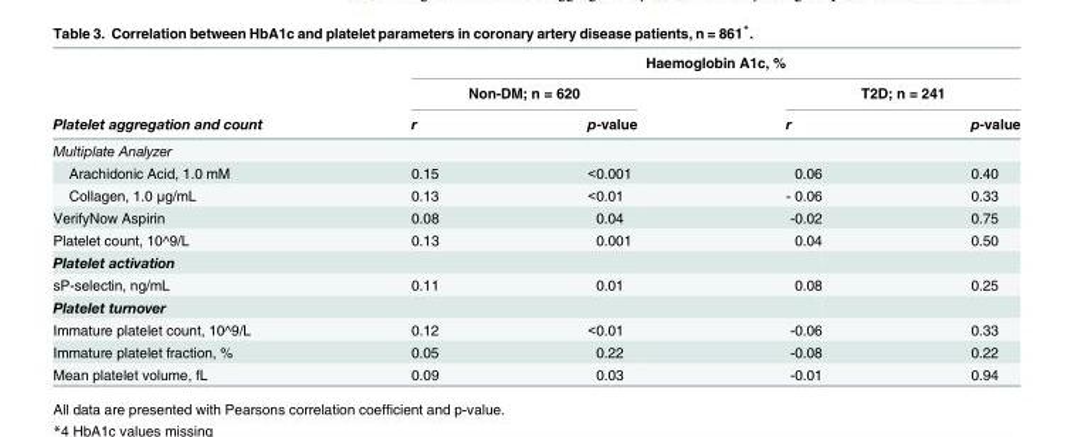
<table><thead><tr><td rowspan="3">Platelet aggregation and count</td><td colspan="4">Haemoglobin A1c, %</td></tr><tr><td colspan="2">Non-DM; n = 620</td><td colspan="2">T2D; n = 241</td></tr><tr><td>r</td><td>p-value</td><td>r</td><td>p-value</td></tr></thead><tbody><tr><td colspan="5">Multiplate Analyzer</td></tr><tr><td>Arachidonic Acid, 1.0 mM</td><td>0.15</td><td>&lt;0.001</td><td>0.06</td><td>0.40</td></tr><tr><td>Collagen, 1.0 μg/mL</td><td>0.13</td><td>&lt;0.01</td><td>- 0.06</td><td>0.33</td></tr><tr><td>VerifyNow Aspirin</td><td>0.08</td><td>0.04</td><td>-0.02</td><td>0.75</td></tr><tr><td>Platelet count, 10^9/L</td><td>0.13</td><td>0.001</td><td>0.04</td><td>0.50</td></tr><tr><td colspan="5">Platelet activation</td></tr><tr><td>sP-selectin, ng/mL</td><td>0.11</td><td>0.01</td><td>0.08</td><td>0.25</td></tr><tr><td colspan="5">Platelet turnover</td></tr><tr><td>Immature platelet count, 10^9/L</td><td>0.12</td><td>&lt;0.01</td><td>-0.06</td><td>0.33</td></tr><tr><td>Immature platelet fraction, %</td><td>0.05</td><td>0.22</td><td>-0.08</td><td>0.22</td></tr><tr><td>Mean platelet volume, fL</td><td>0.09</td><td>0.03</td><td>-0.01</td><td>0.94</td></tr></tbody></table>